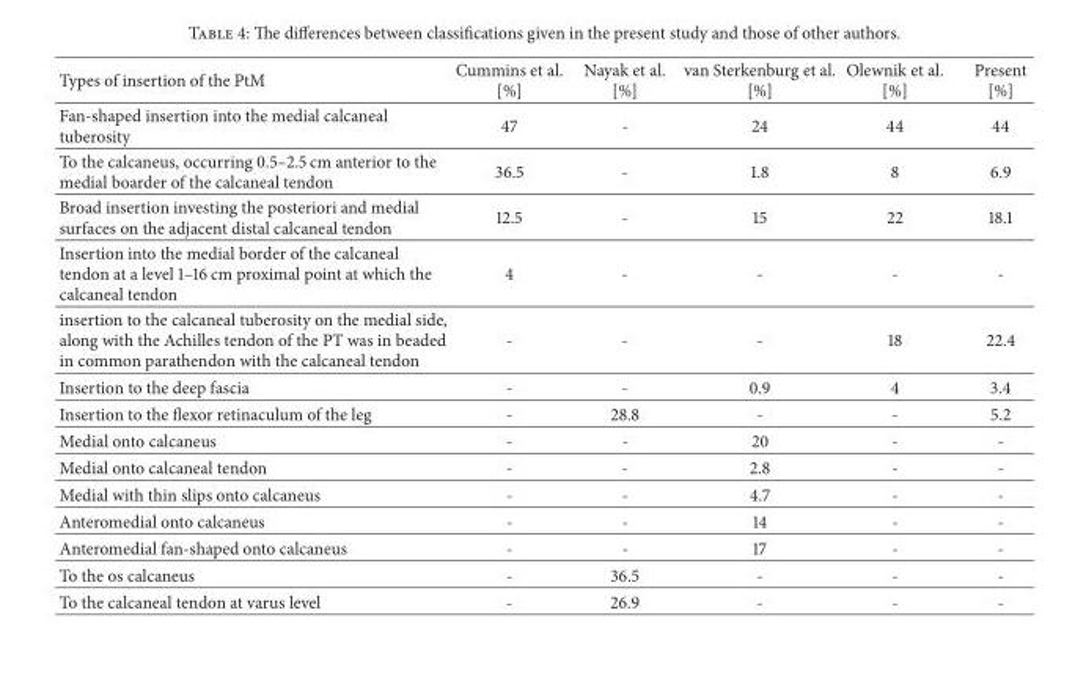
<table><thead><tr><td>Types of insertion of the PtM</td><td>Cummins et al. [%]</td><td>Nayak et al. [%]</td><td>van Sterkenburg et al. [%]</td><td>Olewnik et al. [%]</td><td>Present [%]</td></tr></thead><tbody><tr><td>Fan-shaped insertion into the medial calcaneal tuberosity</td><td>47</td><td>-</td><td>24</td><td>44</td><td>44</td></tr><tr><td>To the calcaneus, occurring 0.5–2.5 cm anterior to the medial boarder of the calcaneal tendon</td><td>36.5</td><td>-</td><td>1.8</td><td>8</td><td>6.9</td></tr><tr><td>Broad insertion investing the posteriori and medial surfaces on the adjacent distal calcaneal tendon</td><td>12.5</td><td>-</td><td>15</td><td>22</td><td>18.1</td></tr><tr><td>Insertion into the medial border of the calcaneal tendon at a level 1–16 cm proximal point at which the calcaneal tendon</td><td>4</td><td>-</td><td>-</td><td>-</td><td>-</td></tr><tr><td>insertion to the calcaneal tuberosity on the medial side, along with the Achilles tendon of the PT was in beaded in common parathendon with the calcaneal tendon</td><td>-</td><td>-</td><td>-</td><td>18</td><td>22.4</td></tr><tr><td>Insertion to the deep fascia</td><td>-</td><td>-</td><td>0.9</td><td>4</td><td>3.4</td></tr><tr><td>Insertion to the flexor retinaculum of the leg</td><td>-</td><td>28.8</td><td>-</td><td>-</td><td>5.2</td></tr><tr><td>Medial onto calcaneus</td><td>-</td><td>-</td><td>20</td><td>-</td><td>-</td></tr><tr><td>Medial onto calcaneal tendon</td><td>-</td><td>-</td><td>2.8</td><td>-</td><td>-</td></tr><tr><td>Medial with thin slips onto calcaneus</td><td>-</td><td>-</td><td>4.7</td><td>-</td><td>-</td></tr><tr><td>Anteromedial onto calcaneus</td><td>-</td><td>-</td><td>14</td><td>-</td><td>-</td></tr><tr><td>Anteromedial fan-shaped onto calcaneus</td><td>-</td><td>-</td><td>17</td><td>-</td><td>-</td></tr><tr><td>To the os calcaneus</td><td>-</td><td>36.5</td><td>-</td><td>-</td><td>-</td></tr><tr><td>To the calcaneal tendon at varus level</td><td>-</td><td>26.9</td><td>-</td><td>-</td><td>-</td></tr></tbody></table>